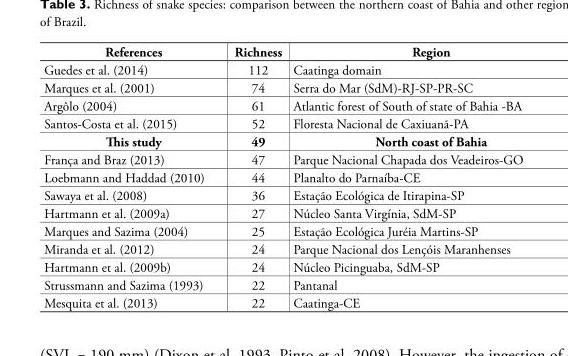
<table><thead><tr><td>References</td><td>Richness</td><td>Region</td></tr></thead><tbody><tr><td>Guedes et al. (2014)</td><td>112</td><td>Caatinga domain</td></tr><tr><td>Marques et al. (2001)</td><td>74</td><td>Serra do Mar (SdM)-RJ-SP-PR-SC</td></tr><tr><td>Argôlo (2004)</td><td>61</td><td>Atlantic forest of South of state of Bahia -BA</td></tr><tr><td>Santos-Costa et al. (2015)</td><td>52</td><td>Floresta Nacional de Caxiuanã-PA</td></tr><tr><td>This study</td><td>49</td><td>North coast of Bahia</td></tr><tr><td>França and Braz (2013)</td><td>47</td><td>Parque Nacional Chapada dos Veadeiros-GO</td></tr><tr><td>Loebmann and Haddad (2010)</td><td>44</td><td>Planalto do Parnaíba-CE</td></tr><tr><td>Sawaya et al. (2008)</td><td>36</td><td>Estação Ecológica de Itirapina-SP</td></tr><tr><td>Hartmann et al. (2009a)</td><td>27</td><td>Núcleo Santa Virgínia, SdM-SP</td></tr><tr><td>Marques and Sazima (2004)</td><td>25</td><td>Estação Ecológica Juréia Martins-SP</td></tr><tr><td>Miranda et al. (2012)</td><td>24</td><td>Parque Nacional dos Lençóis Maranhenses</td></tr><tr><td>Hartmann et al. (2009b)</td><td>24</td><td>Núcleo Picinguaba, SdM-SP</td></tr><tr><td>Strussmann and Sazima (1993)</td><td>22</td><td>Pantanal</td></tr><tr><td>Mesquita et al. (2013)</td><td>22</td><td>Caatinga-CE</td></tr></tbody></table>